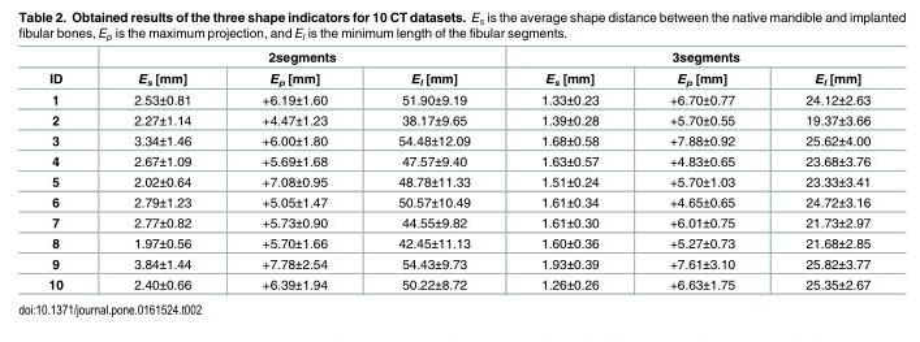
<table><thead><tr><td rowspan="2">ID</td><td colspan="3">2segments</td><td colspan="3">3segments</td></tr><tr><td>E<sub>s</sub> [mm]</td><td>E<sub>p</sub> [mm]</td><td>E<sub>l</sub> [mm]</td><td>E<sub>s</sub> [mm]</td><td>E<sub>p</sub> [mm]</td><td>E<sub>l</sub> [mm]</td></tr></thead><tbody><tr><td>1</td><td>2.53±0.81</td><td>+6.19±1.60</td><td>51.90±9.19</td><td>1.33±0.23</td><td>+6.70±0.77</td><td>24.12±2.63</td></tr><tr><td>2</td><td>2.27±1.14</td><td>+4.47±1.23</td><td>38.17±9.65</td><td>1.39±0.28</td><td>+5.70±0.55</td><td>19.37±3.66</td></tr><tr><td>3</td><td>3.34±1.46</td><td>+6.00±1.80</td><td>54.48±12.09</td><td>1.68±0.58</td><td>+7.88±0.92</td><td>25.62±4.00</td></tr><tr><td>4</td><td>2.67±1.09</td><td>+5.69±1.68</td><td>47.57±9.40</td><td>1.63±0.57</td><td>+4.83±0.65</td><td>23.68±3.76</td></tr><tr><td>5</td><td>2.02±0.64</td><td>+7.08±0.95</td><td>48.78±11.33</td><td>1.51±0.24</td><td>+5.70±1.03</td><td>23.33±3.41</td></tr><tr><td>6</td><td>2.79±1.23</td><td>+5.05±1.47</td><td>50.57±10.49</td><td>1.61±0.34</td><td>+4.65±0.65</td><td>24.72±3.16</td></tr><tr><td>7</td><td>2.77±0.82</td><td>+5.73±0.90</td><td>44.55±9.82</td><td>1.61±0.30</td><td>+6.01±0.75</td><td>21.73±2.97</td></tr><tr><td>8</td><td>1.97±0.56</td><td>+5.70±1.66</td><td>42.45±11.13</td><td>1.60±0.36</td><td>+5.27±0.73</td><td>21.68±2.85</td></tr><tr><td>9</td><td>3.84±1.44</td><td>+7.78±2.54</td><td>54.43±9.73</td><td>1.93±0.39</td><td>+7.61±3.10</td><td>25.82±3.77</td></tr><tr><td>10</td><td>2.40±0.66</td><td>+6.39±1.94</td><td>50.22±8.72</td><td>1.26±0.26</td><td>+6.63±1.75</td><td>25.35±2.67</td></tr></tbody></table>